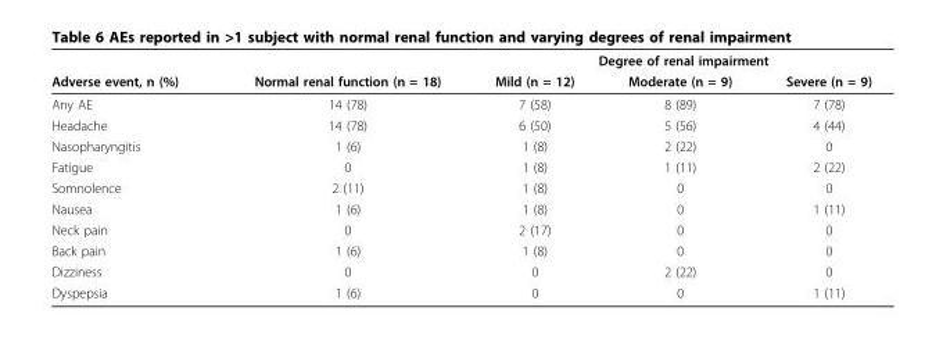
<table><thead><tr><td rowspan="2">Adverse event, n (%)</td><td rowspan="2">Normal renal function (n = 18)</td><td colspan="3">Degree of renal impairment</td></tr><tr><td>Mild (n = 12)</td><td>Moderate (n = 9)</td><td>Severe (n = 9)</td></tr></thead><tbody><tr><td>Any AE</td><td>14 (78)</td><td>7 (58)</td><td>8 (89)</td><td>7 (78)</td></tr><tr><td>Headache</td><td>14 (78)</td><td>6 (50)</td><td>5 (56)</td><td>4 (44)</td></tr><tr><td>Nasopharyngitis</td><td>1 (6)</td><td>1 (8)</td><td>2 (22)</td><td>0</td></tr><tr><td>Fatigue</td><td>0</td><td>1 (8)</td><td>1 (11)</td><td>2 (22)</td></tr><tr><td>Somnolence</td><td>2 (11)</td><td>1 (8)</td><td>0</td><td>0</td></tr><tr><td>Nausea</td><td>1 (6)</td><td>1 (8)</td><td>0</td><td>1 (11)</td></tr><tr><td>Neck pain</td><td>0</td><td>2 (17)</td><td>0</td><td>0</td></tr><tr><td>Back pain</td><td>1 (6)</td><td>1 (8)</td><td>0</td><td>0</td></tr><tr><td>Dizziness</td><td>0</td><td>0</td><td>2 (22)</td><td>0</td></tr><tr><td>Dyspepsia</td><td>1 (6)</td><td>0</td><td>0</td><td>1 (11)</td></tr></tbody></table>